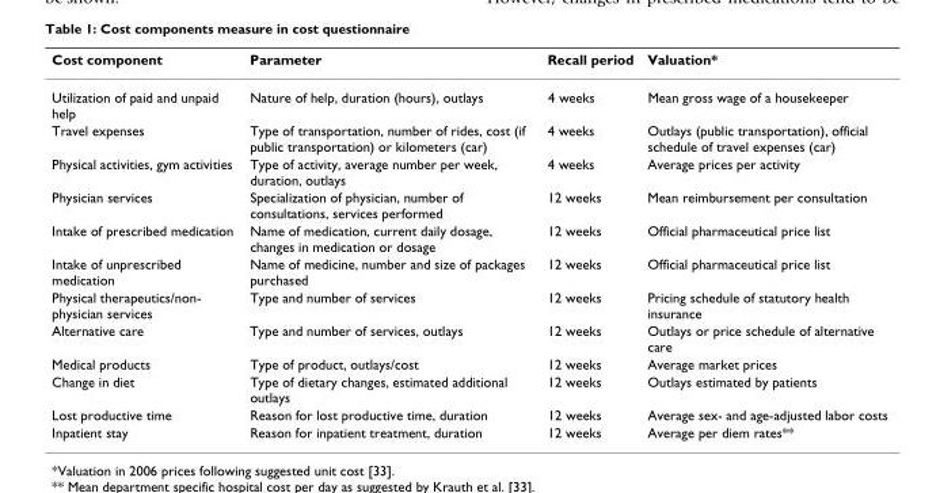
<table><thead><tr><td>Cost component</td><td>Parameter</td><td>Recall period</td><td>Valuation*</td></tr></thead><tbody><tr><td>Utilization of paid and unpaid help</td><td>Nature of help, duration (hours), outlays</td><td>4 weeks</td><td>Mean gross wage of a housekeeper</td></tr><tr><td>Travel expenses</td><td>Type of transportation, number of rides, cost (if public transportation) or kilometers (car)</td><td>4 weeks</td><td>Outlays (public transportation), official schedule of travel expenses (car)</td></tr><tr><td>Physical activities, gym activities</td><td>Type of activity, average number per week, duration, outlays</td><td>4 weeks</td><td>Average prices per activity</td></tr><tr><td>Physician services</td><td>Specialization of physician, number of consultations, services performed</td><td>12 weeks</td><td>Mean reimbursement per consultation</td></tr><tr><td>Intake of prescribed medication</td><td>Name of medication, current daily dosage, changes in medication or dosage</td><td>12 weeks</td><td>Official pharmaceutical price list</td></tr><tr><td>Intake of unprescribed medication</td><td>Name of medicine, number and size of packages purchased</td><td>12 weeks</td><td>Official pharmaceutical price list</td></tr><tr><td>Physical therapeutics/non- physician services</td><td>Type and number of services</td><td>12 weeks</td><td>Pricing schedule of statutory health insurance</td></tr><tr><td>Alternative care</td><td>Type and number of services, outlays</td><td>12 weeks</td><td>Outlays or price schedule of alternative care</td></tr><tr><td>Medical products</td><td>Type of product, outlays/cost</td><td>12 weeks</td><td>Average market prices</td></tr><tr><td>Change in diet</td><td>Type of dietary changes, estimated additional outlays</td><td>12 weeks</td><td>Outlays estimated by patients</td></tr><tr><td>Lost productive time</td><td>Reason for lost productive time, duration</td><td>12 weeks</td><td>Average sex- and age-adjusted labor costs</td></tr><tr><td>Inpatient stay</td><td>Reason for inpatient treatment, duration</td><td>12 weeks</td><td>Average per diem rates**</td></tr></tbody></table>